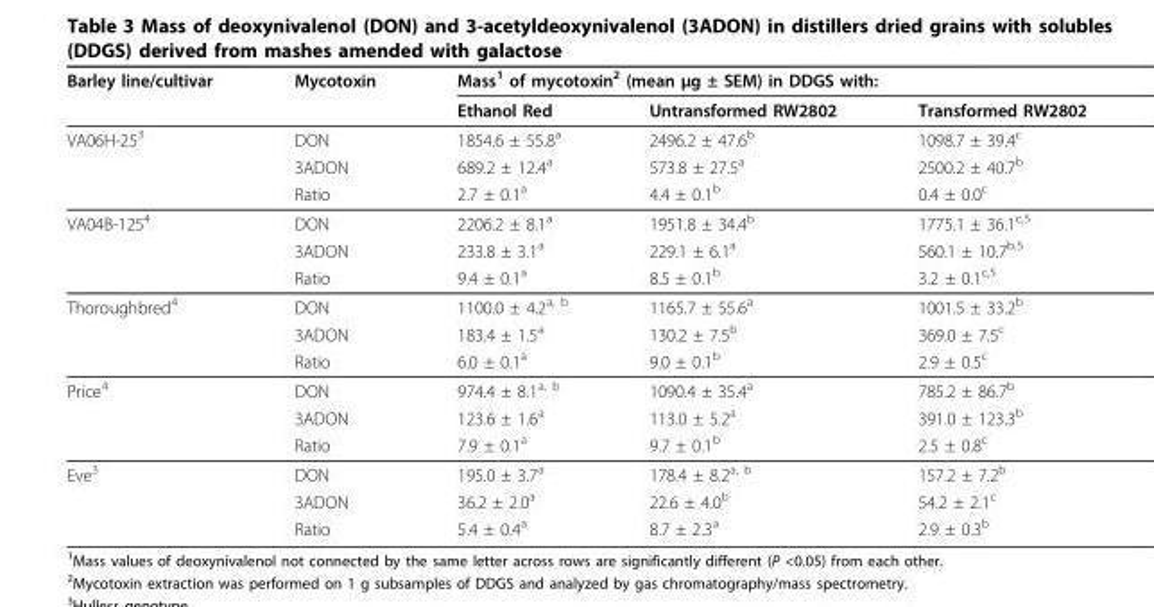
<table><thead><tr><td rowspan="2">Barley line/cultivar</td><td rowspan="2">Mycotoxin</td><td colspan="3">Mass<sup>1</sup> of mycotoxin<sup>2</sup> (mean μg ± SEM) in DDGS with:</td></tr><tr><td>Ethanol Red</td><td>Untransformed RW2802</td><td>Transformed RW2802</td></tr></thead><tbody><tr><td rowspan="3">VA06H-25<sup>3</sup></td><td>DON</td><td>1854.6 ± 55.8<sup>a</sup></td><td>2496.2 ± 47.6<sup>b</sup></td><td>1098.7 ± 39.4<sup>c</sup></td></tr><tr><td>3ADON</td><td>689.2 ± 12.4<sup>a</sup></td><td>573.8 ± 27.5<sup>a</sup></td><td>2500.2 ± 40.7<sup>b</sup></td></tr><tr><td>Ratio</td><td>2.7 ± 0.1<sup>a</sup></td><td>4.4 ± 0.1<sup>b</sup></td><td>0.4 ± 0.0<sup>c</sup></td></tr><tr><td rowspan="3">VA04B-125<sup>4</sup></td><td>DON</td><td>2206.2 ± 8.1<sup>a</sup></td><td>1951.8 ± 34.4<sup>b</sup></td><td>1775.1 ± 36.1<sup>c,5</sup></td></tr><tr><td>3ADON</td><td>233.8 ± 3.1<sup>a</sup></td><td>229.1 ± 6.1<sup>a</sup></td><td>560.1 ± 10.7<sup>b,5</sup></td></tr><tr><td>Ratio</td><td>9.4 ± 0.1<sup>a</sup></td><td>8.5 ± 0.1<sup>b</sup></td><td>3.2 ± 0.1<sup>c,5</sup></td></tr><tr><td rowspan="3">Thoroughbred<sup>4</sup></td><td>DON</td><td>1100.0 ± 4.2<sup>a, b</sup></td><td>1165.7 ± 55.6<sup>a</sup></td><td>1001.5 ± 33.2<sup>b</sup></td></tr><tr><td>3ADON</td><td>183.4 ± 1.5<sup>a</sup></td><td>130.2 ± 7.5<sup>b</sup></td><td>369.0 ± 7.5<sup>c</sup></td></tr><tr><td>Ratio</td><td>6.0 ± 0.1<sup>a</sup></td><td>9.0 ± 0.1<sup>b</sup></td><td>2.9 ± 0.5<sup>c</sup></td></tr><tr><td rowspan="3">Price<sup>4</sup></td><td>DON</td><td>974.4 ± 8.1<sup>a, b</sup></td><td>1090.4 ± 35.4<sup>a</sup></td><td>785.2 ± 86.7<sup>b</sup></td></tr><tr><td>3ADON</td><td>123.6 ± 1.6<sup>a</sup></td><td>113.0 ± 5.2<sup>a</sup></td><td>391.0 ± 123.3<sup>b</sup></td></tr><tr><td>Ratio</td><td>7.9 ± 0.1<sup>a</sup></td><td>9.7 ± 0.1<sup>b</sup></td><td>2.5 ± 0.8<sup>c</sup></td></tr><tr><td rowspan="3">Eve<sup>3</sup></td><td>DON</td><td>195.0 ± 3.7<sup>a</sup></td><td>178.4 ± 8.2<sup>a, b</sup></td><td>157.2 ± 7.2<sup>b</sup></td></tr><tr><td>3ADON</td><td>36.2 ± 2.0<sup>a</sup></td><td>22.6 ± 4.0<sup>b</sup></td><td>54.2 ± 2.1<sup>c</sup></td></tr><tr><td>Ratio</td><td>5.4 ± 0.4<sup>a</sup></td><td>8.7 ± 2.3<sup>a</sup></td><td>2.9 ± 0.3<sup>b</sup></td></tr></tbody></table>